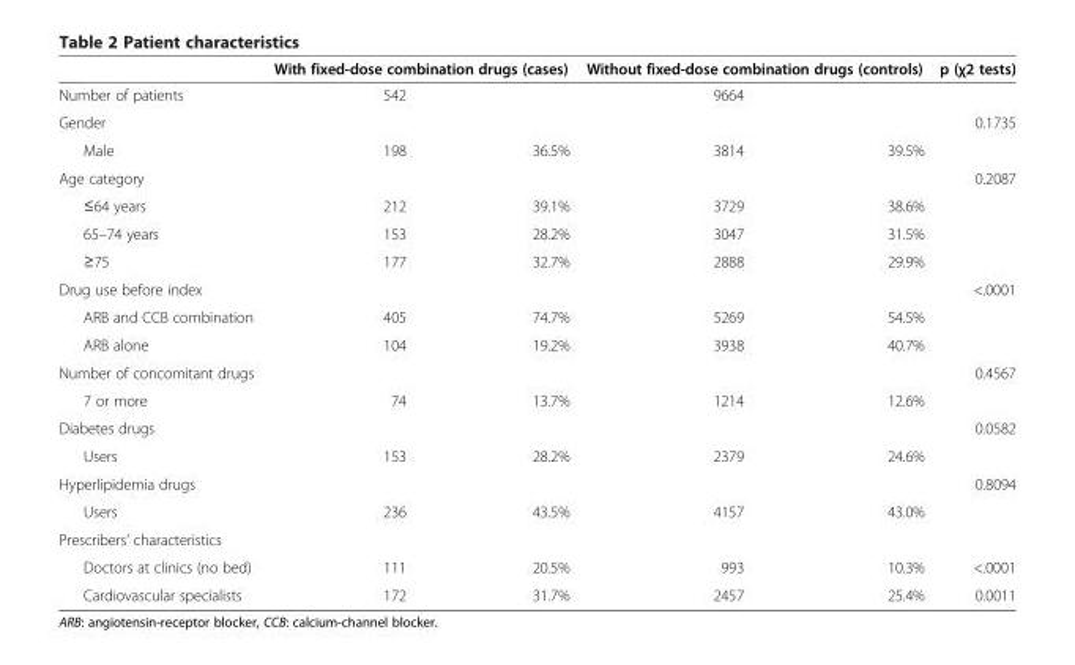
<table><thead><tr><td rowspan="2">Number of patients</td><td colspan="2">With fixed-dose combination drugs (cases)</td><td colspan="2">Without fixed-dose combination drugs (controls)</td><td rowspan="2">p (χ2 tests)</td></tr><tr><td>542</td><td></td><td>9664</td><td></td></tr></thead><tbody><tr><td>Gender</td><td></td><td></td><td></td><td></td><td>0.1735</td></tr><tr><td>Male</td><td>198</td><td>36.5%</td><td>3814</td><td>39.5%</td><td></td></tr><tr><td>Age category</td><td></td><td></td><td></td><td></td><td>0.2087</td></tr><tr><td>≤64 years</td><td>212</td><td>39.1%</td><td>3729</td><td>38.6%</td><td></td></tr><tr><td>65–74 years</td><td>153</td><td>28.2%</td><td>3047</td><td>31.5%</td><td></td></tr><tr><td>≥75</td><td>177</td><td>32.7%</td><td>2888</td><td>29.9%</td><td></td></tr><tr><td>Drug use before index</td><td></td><td></td><td></td><td></td><td>&lt;.0001</td></tr><tr><td>ARB and CCB combination</td><td>405</td><td>74.7%</td><td>5269</td><td>54.5%</td><td></td></tr><tr><td>ARB alone</td><td>104</td><td>19.2%</td><td>3938</td><td>40.7%</td><td></td></tr><tr><td>Number of concomitant drugs</td><td></td><td></td><td></td><td></td><td>0.4567</td></tr><tr><td>7 or more</td><td>74</td><td>13.7%</td><td>1214</td><td>12.6%</td><td></td></tr><tr><td>Diabetes drugs</td><td></td><td></td><td></td><td></td><td>0.0582</td></tr><tr><td>Users</td><td>153</td><td>28.2%</td><td>2379</td><td>24.6%</td><td></td></tr><tr><td>Hyperlipidemia drugs</td><td></td><td></td><td></td><td></td><td>0.8094</td></tr><tr><td>Users</td><td>236</td><td>43.5%</td><td>4157</td><td>43.0%</td><td></td></tr><tr><td colspan="6">Prescribers’ characteristics</td></tr><tr><td>Doctors at clinics (no bed)</td><td>111</td><td>20.5%</td><td>993</td><td>10.3%</td><td>&lt;.0001</td></tr><tr><td>Cardiovascular specialists</td><td>172</td><td>31.7%</td><td>2457</td><td>25.4%</td><td>0.0011</td></tr></tbody></table>